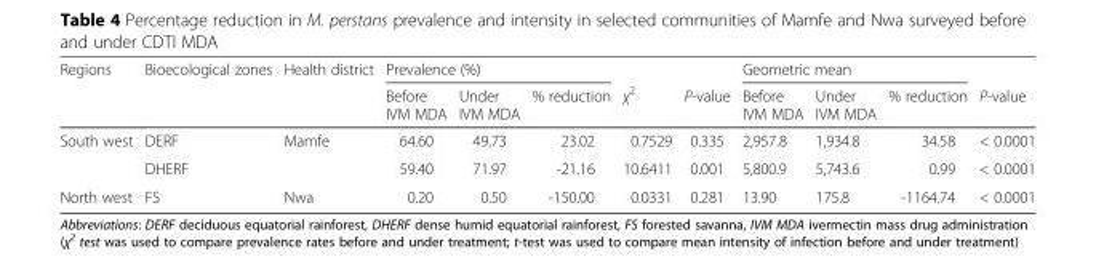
<table><thead><tr><td rowspan="2">Regions</td><td rowspan="2">Bioecological zones</td><td rowspan="2">Health district</td><td colspan="3">Prevalence (%)</td><td rowspan="2">χ<sup>2</sup></td><td rowspan="2">P-value</td><td colspan="3">Geometric mean</td><td rowspan="2">P-value</td></tr><tr><td>Before IVM MDA</td><td>Under IVM MDA</td><td>% reduction</td><td>Before IVM MDA</td><td>Under IVM MDA</td><td>% reduction</td></tr></thead><tbody><tr><td rowspan="2">South west</td><td>DERF</td><td rowspan="2">Mamfe</td><td>64.60</td><td>49.73</td><td>23.02</td><td>0.7529</td><td>0.335</td><td>2,957.8</td><td>1,934.8</td><td>34.58</td><td>&lt; 0.0001</td></tr><tr><td>DHERF</td><td>59.40</td><td>71.97</td><td>-21.16</td><td>10.6411</td><td>0.001</td><td>5,800.9</td><td>5,743.6</td><td>0.99</td><td>&lt; 0.0001</td></tr><tr><td>North west</td><td>FS</td><td>Nwa</td><td>0.20</td><td>0.50</td><td>-150.00</td><td>0.0331</td><td>0.281</td><td>13.90</td><td>175.8</td><td>-1164.74</td><td>&lt; 0.0001</td></tr></tbody></table>